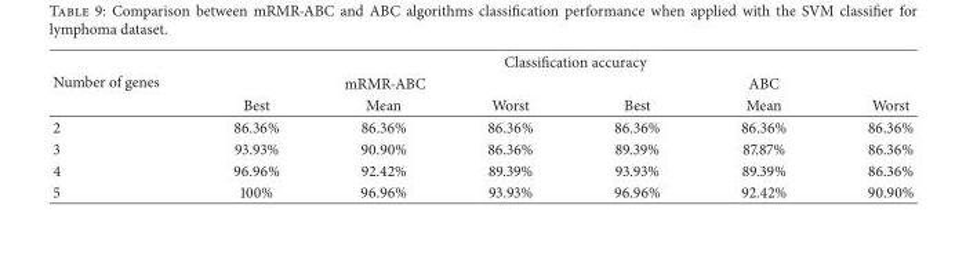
<table><thead><tr><td rowspan="3">Number of genes</td><td colspan="6">Classification accuracy</td></tr><tr><td colspan="3">mRMR-ABC</td><td colspan="3">ABC</td></tr><tr><td>Best</td><td>Mean</td><td>Worst</td><td>Best</td><td>Mean</td><td>Worst</td></tr></thead><tbody><tr><td>2</td><td>86.36%</td><td>86.36%</td><td>86.36%</td><td>86.36%</td><td>86.36%</td><td>86.36%</td></tr><tr><td>3</td><td>93.93%</td><td>90.90%</td><td>86.36%</td><td>89.39%</td><td>87.87%</td><td>86.36%</td></tr><tr><td>4</td><td>96.96%</td><td>92.42%</td><td>89.39%</td><td>93.93%</td><td>89.39%</td><td>86.36%</td></tr><tr><td>5</td><td>100%</td><td>96.96%</td><td>93.93%</td><td>96.96%</td><td>92.42%</td><td>90.90%</td></tr></tbody></table>